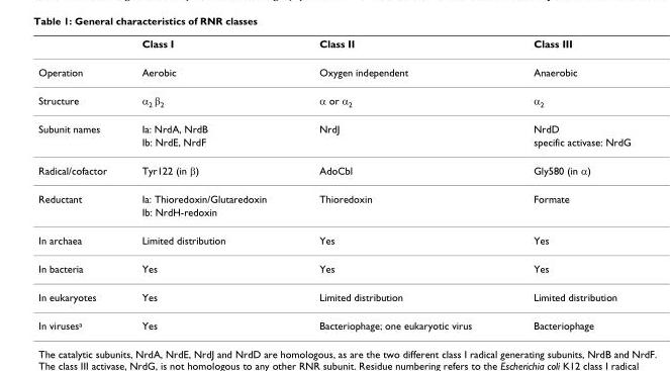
<table><thead><tr><td></td><td>Class I</td><td>Class II</td><td>Class III</td></tr></thead><tbody><tr><td>Operation</td><td>Aerobic</td><td>Oxygen independent</td><td>Anaerobic</td></tr><tr><td>Structure</td><td>α<sub>2</sub> β<sub>2</sub></td><td>α or α<sub>2</sub></td><td>α<sub>2</sub></td></tr><tr><td rowspan="2">Subunit names</td><td>Ia: NrdA, NrdB</td><td>NrdJ</td><td>NrdD</td></tr><tr><td>Ib: NrdE, NrdF</td><td></td><td>specific activase: NrdG</td></tr><tr><td>Radical/cofactor</td><td>Tyr122 (in β)</td><td>AdoCbl</td><td>Gly580 (in α)</td></tr><tr><td rowspan="2">Reductant</td><td>Ia: Thioredoxin/Glutaredoxin</td><td>Thioredoxin</td><td>Formate</td></tr><tr><td>Ib: NrdH-redoxin</td><td></td><td></td></tr><tr><td>In archaea</td><td>Limited distribution</td><td>Yes</td><td>Yes</td></tr><tr><td>In bacteria</td><td>Yes</td><td>Yes</td><td>Yes</td></tr><tr><td>In eukaryotes</td><td>Yes</td><td>Limited distribution</td><td>Limited distribution</td></tr><tr><td>In viruses<sup>a</sup></td><td>Yes</td><td>Bacteriophage; one eukaryotic virus</td><td>Bacteriophage</td></tr></tbody></table>